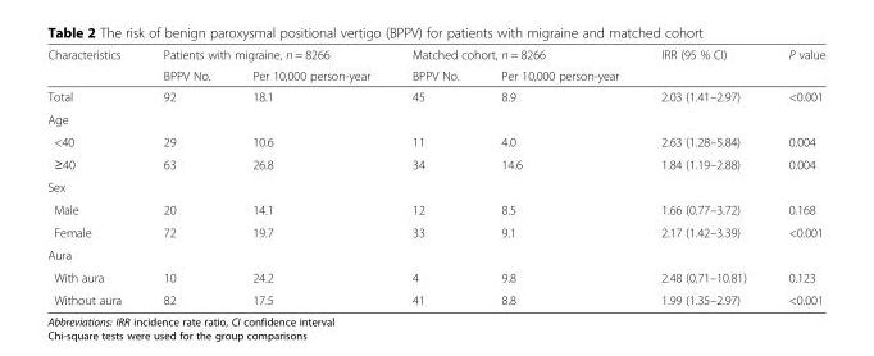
<table><thead><tr><td rowspan="2">Characteristics</td><td colspan="2">Patients with migraine, n = 8266</td><td colspan="2">Matched cohort, n = 8266</td><td rowspan="2">IRR (95 % CI)</td><td rowspan="2">P value</td></tr><tr><td>BPPV No.</td><td>Per 10,000 person-year</td><td>BPPV No.</td><td>Per 10,000 person-year</td></tr></thead><tbody><tr><td>Total</td><td>92</td><td>18.1</td><td>45</td><td>8.9</td><td>2.03 (1.41–2.97)</td><td>&lt;0.001</td></tr><tr><td colspan="7">Age</td></tr><tr><td>&lt;40</td><td>29</td><td>10.6</td><td>11</td><td>4.0</td><td>2.63 (1.28–5.84)</td><td>0.004</td></tr><tr><td>≥40</td><td>63</td><td>26.8</td><td>34</td><td>14.6</td><td>1.84 (1.19–2.88)</td><td>0.004</td></tr><tr><td colspan="7">Sex</td></tr><tr><td>Male</td><td>20</td><td>14.1</td><td>12</td><td>8.5</td><td>1.66 (0.77–3.72)</td><td>0.168</td></tr><tr><td>Female</td><td>72</td><td>19.7</td><td>33</td><td>9.1</td><td>2.17 (1.42–3.39)</td><td>&lt;0.001</td></tr><tr><td colspan="7">Aura</td></tr><tr><td>With aura</td><td>10</td><td>24.2</td><td>4</td><td>9.8</td><td>2.48 (0.71–10.81)</td><td>0.123</td></tr><tr><td>Without aura</td><td>82</td><td>17.5</td><td>41</td><td>8.8</td><td>1.99 (1.35–2.97)</td><td>&lt;0.001</td></tr></tbody></table>